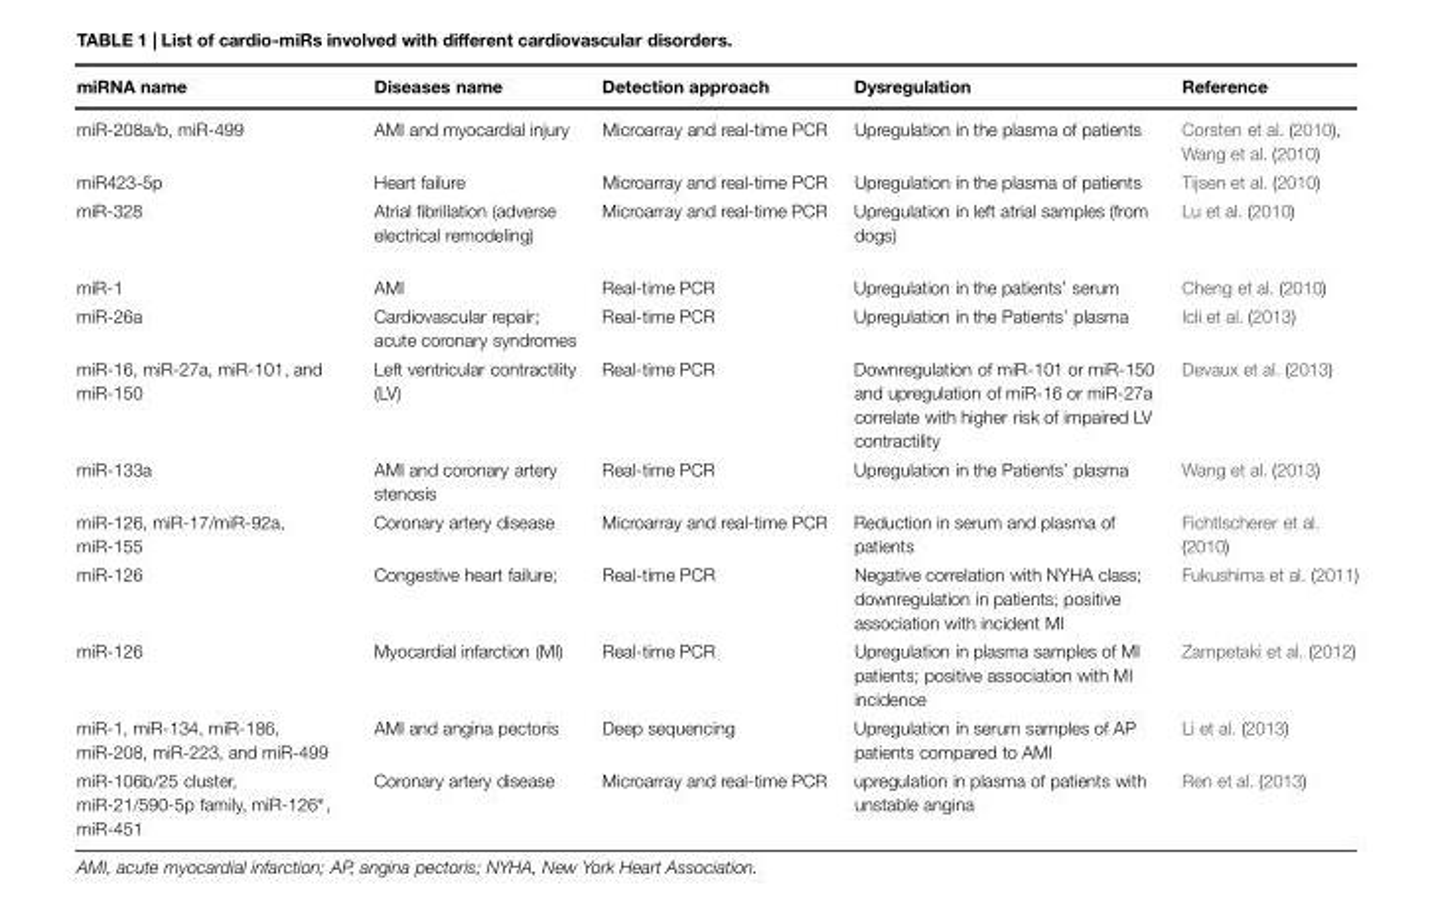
<table><thead><tr><td>miRNA name</td><td>Diseases name</td><td>Detection approach</td><td>Dysregulation</td><td>Reference</td></tr></thead><tbody><tr><td>miR-208a/b, miR-499</td><td>AMI and myocardial injury</td><td>Microarray and real-time PCR</td><td>Upregulation in the plasma of patients</td><td>Corsten et al. (2010), Wang et al. (2010)</td></tr><tr><td>miR423-5p</td><td>Heart failure</td><td>Microarray and real-time PCR</td><td>Upregulation in the plasma of patients</td><td>Tijsen et al. (2010)</td></tr><tr><td>miR-328</td><td>Atrial fibrillation (adverse electrical remodeling)</td><td>Microarray and real-time PCR</td><td>Upregulation in left atrial samples (from dogs)</td><td>Lu et al. (2010)</td></tr><tr><td>miR-1</td><td>AMI</td><td>Real-time PCR</td><td>Upregulation in the patients’ serum</td><td>Cheng et al. (2010)</td></tr><tr><td>miR-26a</td><td>Cardiovascular repair; acute coronary syndromes</td><td>Real-time PCR</td><td>Upregulation in the Patients’ plasma</td><td>Icli et al. (2013)</td></tr><tr><td>miR-16, miR-27a, miR-101, and miR-150</td><td>Left ventricular contractility (LV)</td><td>Real-time PCR</td><td>Downregulation of miR-101 or miR-150 and upregulation of miR-16 or miR-27a correlate with higher risk of impaired LV contractility</td><td>Devaux et al. (2013)</td></tr><tr><td>miR-133a</td><td>AMI and coronary artery stenosis</td><td>Real-time PCR</td><td>Upregulation in the Patients’ plasma</td><td>Wang et al. (2013)</td></tr><tr><td>miR-126, miR-17/miR-92a, miR-155</td><td>Coronary artery disease</td><td>Microarray and real-time PCR</td><td>Reduction in serum and plasma of patients</td><td>Fichtlscherer et al. (2010)</td></tr><tr><td>miR-126</td><td>Congestive heart failure;</td><td>Real-time PCR</td><td>Negative correlation with NYHA class; downregulation in patients; positive association with incident MI</td><td>Fukushima et al. (2011)</td></tr><tr><td>miR-126</td><td>Myocardial infarction (MI)</td><td>Real-time PCR</td><td>Upregulation in plasma samples of MI patients; positive association with MI incidence</td><td>Zampetaki et al. (2012)</td></tr><tr><td>miR-1, miR-134, miR-186, miR-208, miR-223, and miR-499</td><td>AMI and angina pectoris</td><td>Deep sequencing</td><td>Upregulation in serum samples of AP patients compared to AMI</td><td>Li et al. (2013)</td></tr><tr><td>miR-106b/25 cluster, miR-21/590-5p family, miR-126∗, miR-451</td><td>Coronary artery disease</td><td>Microarray and real-time PCR</td><td>upregulation in plasma of patients with unstable angina</td><td>Ren et al. (2013)</td></tr></tbody></table>